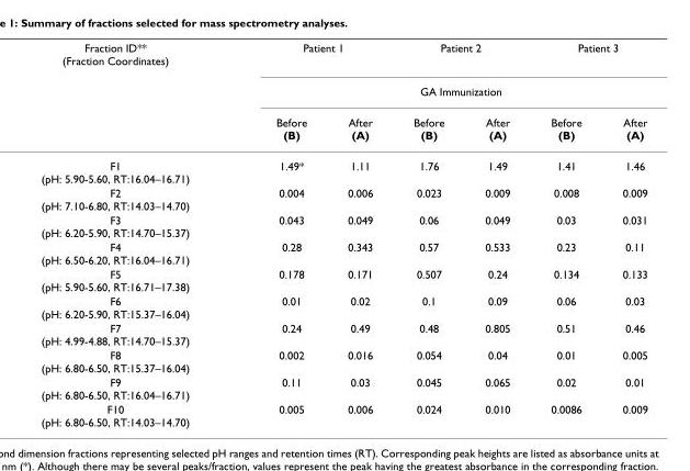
<table><thead><tr><td rowspan="3">Fraction ID** (Fraction Coordinates)</td><td colspan="2">Patient 1</td><td colspan="2">Patient 2</td><td colspan="2">Patient 3</td></tr><tr><td colspan="6">GA Immunization</td></tr><tr><td>Before (B)</td><td>After (A)</td><td>Before (B)</td><td>After (A)</td><td>Before (B)</td><td>After (A)</td></tr></thead><tbody><tr><td>F1 (pH: 5.90-5.60, RT:16.04–16.71)</td><td>1.49*</td><td>1.11</td><td>1.76</td><td>1.49</td><td>1.41</td><td>1.46</td></tr><tr><td>F2 (pH: 7.10-6.80, RT:14.03–14.70)</td><td>0.004</td><td>0.006</td><td>0.023</td><td>0.009</td><td>0.008</td><td>0.009</td></tr><tr><td>F3 (pH: 6.20-5.90, RT:14.70–15.37)</td><td>0.043</td><td>0.049</td><td>0.06</td><td>0.049</td><td>0.03</td><td>0.031</td></tr><tr><td>F4 (pH: 6.50-6.20, RT:16.04–16.71)</td><td>0.28</td><td>0.343</td><td>0.57</td><td>0.533</td><td>0.23</td><td>0.11</td></tr><tr><td>F5 (pH: 5.90-5.60, RT:16.71–17.38)</td><td>0.178</td><td>0.171</td><td>0.507</td><td>0.24</td><td>0.134</td><td>0.133</td></tr><tr><td>F6 (pH: 6.20-5.90, RT:15.37–16.04)</td><td>0.01</td><td>0.02</td><td>0.1</td><td>0.09</td><td>0.06</td><td>0.03</td></tr><tr><td>F7 (pH: 4.99-4.88, RT:14.70–15.37)</td><td>0.24</td><td>0.49</td><td>0.48</td><td>0.805</td><td>0.51</td><td>0.46</td></tr><tr><td>F8 (pH: 6.80-6.50, RT:15.37–16.04)</td><td>0.002</td><td>0.016</td><td>0.054</td><td>0.04</td><td>0.01</td><td>0.005</td></tr><tr><td>F9 (pH: 6.80-6.50, RT:16.04–16.71)</td><td>0.11</td><td>0.03</td><td>0.045</td><td>0.065</td><td>0.02</td><td>0.01</td></tr><tr><td>F10 (pH: 6.80-6.50, RT:14.03–14.70)</td><td>0.005</td><td>0.006</td><td>0.024</td><td>0.010</td><td>0.0086</td><td>0.009</td></tr></tbody></table>